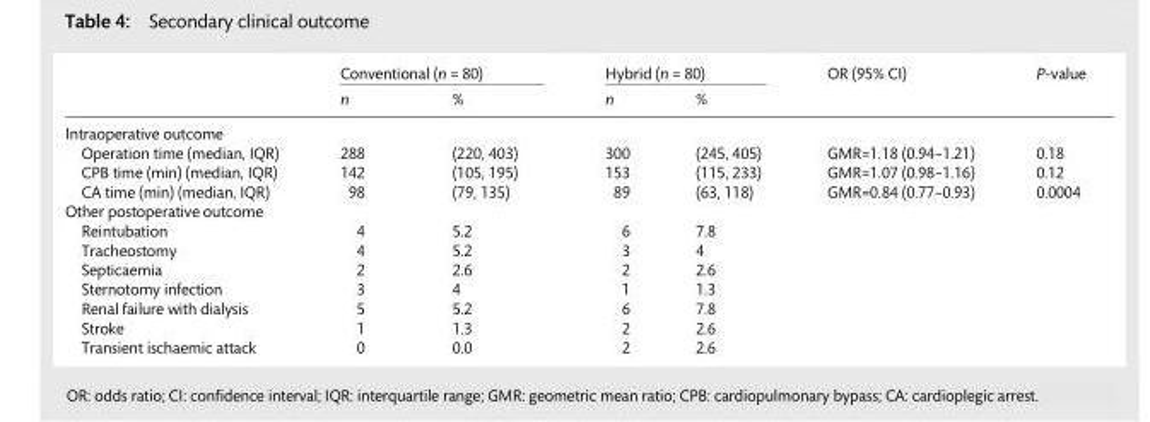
<table><thead><tr><td rowspan="2"></td><td colspan="2">Conventional (n = 80)</td><td colspan="2">Hybrid (n = 80)</td><td rowspan="2">OR (95% CI)</td><td rowspan="2">P-value</td></tr><tr><td>n</td><td>%</td><td>n</td><td>%</td></tr></thead><tbody><tr><td colspan="7">Intraoperative outcome</td></tr><tr><td>Operation time (median, IQR)</td><td>288</td><td>(220, 403)</td><td>300</td><td>(245, 405)</td><td>GMR=1.18 (0.94–1.21)</td><td>0.18</td></tr><tr><td>CPB time (min) (median, IQR)</td><td>142</td><td>(105, 195)</td><td>153</td><td>(115, 233)</td><td>GMR=1.07 (0.98–1.16)</td><td>0.12</td></tr><tr><td>CA time (min) (median, IQR)</td><td>98</td><td>(79, 135)</td><td>89</td><td>(63, 118)</td><td>GMR=0.84 (0.77–0.93)</td><td>0.0004</td></tr><tr><td colspan="7">Other postoperative outcome</td></tr><tr><td>Reintubation</td><td>4</td><td>5.2</td><td>6</td><td>7.8</td><td></td><td></td></tr><tr><td>Tracheostomy</td><td>4</td><td>5.2</td><td>3</td><td>4</td><td></td><td></td></tr><tr><td>Septicaemia</td><td>2</td><td>2.6</td><td>2</td><td>2.6</td><td></td><td></td></tr><tr><td>Sternotomy infection</td><td>3</td><td>4</td><td>1</td><td>1.3</td><td></td><td></td></tr><tr><td>Renal failure with dialysis</td><td>5</td><td>5.2</td><td>6</td><td>7.8</td><td></td><td></td></tr><tr><td>Stroke</td><td>1</td><td>1.3</td><td>2</td><td>2.6</td><td></td><td></td></tr><tr><td>Transient ischaemic attack</td><td>0</td><td>0.0</td><td>2</td><td>2.6</td><td></td><td></td></tr></tbody></table>